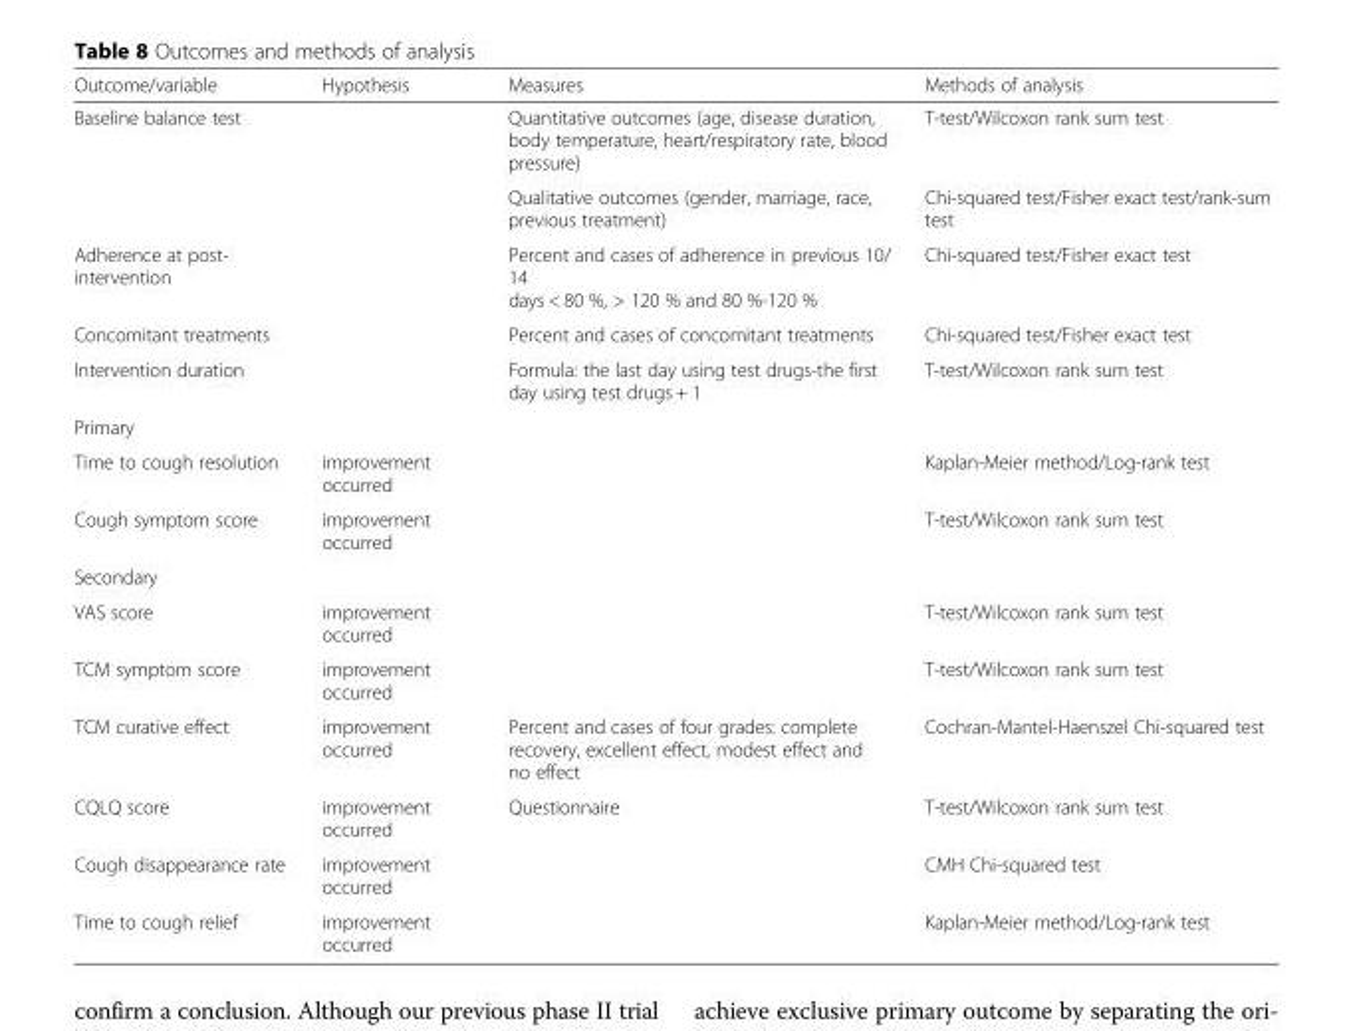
<table><thead><tr><td>Outcome/variable</td><td>Hypothesis</td><td>Measures</td><td>Methods of analysis</td></tr></thead><tbody><tr><td rowspan="2">Baseline balance test</td><td rowspan="2"></td><td>Quantitative outcomes (age, disease duration, body temperature, heart/respiratory rate, blood pressure)</td><td>T-test/Wilcoxon rank sum test</td></tr><tr><td>Qualitative outcomes (gender, marriage, race, previous treatment)</td><td>Chi-squared test/Fisher exact test/rank-sum test</td></tr><tr><td>Adherence at post- intervention</td><td></td><td>Percent and cases of adherence in previous 10/ 14 days &lt; 80 %, &gt; 120 % and 80 %-120 %</td><td>Chi-squared test/Fisher exact test</td></tr><tr><td>Concomitant treatments</td><td></td><td>Percent and cases of concomitant treatments</td><td>Chi-squared test/Fisher exact test</td></tr><tr><td>Intervention duration</td><td></td><td>Formula: the last day using test drugs-the first day using test drugs + 1</td><td>T-test/Wilcoxon rank sum test</td></tr><tr><td colspan="4">Primary</td></tr><tr><td>Time to cough resolution</td><td>improvement occurred</td><td></td><td>Kaplan-Meier method/Log-rank test</td></tr><tr><td>Cough symptom score</td><td>improvement occurred</td><td></td><td>T-test/Wilcoxon rank sum test</td></tr><tr><td colspan="4">Secondary</td></tr><tr><td>VAS score</td><td>improvement occurred</td><td></td><td>T-test/Wilcoxon rank sum test</td></tr><tr><td>TCM symptom score</td><td>improvement occurred</td><td></td><td>T-test/Wilcoxon rank sum test</td></tr><tr><td>TCM curative effect</td><td>improvement occurred</td><td>Percent and cases of four grades: complete recovery, excellent effect, modest effect and no effect</td><td>Cochran-Mantel-Haenszel Chi-squared test</td></tr><tr><td>CQLQ score</td><td>improvement occurred</td><td>Questionnaire</td><td>T-test/Wilcoxon rank sum test</td></tr><tr><td>Cough disappearance rate</td><td>improvement occurred</td><td></td><td>CMH Chi-squared test</td></tr><tr><td>Time to cough relief</td><td>improvement occurred</td><td></td><td>Kaplan-Meier method/Log-rank test</td></tr></tbody></table>